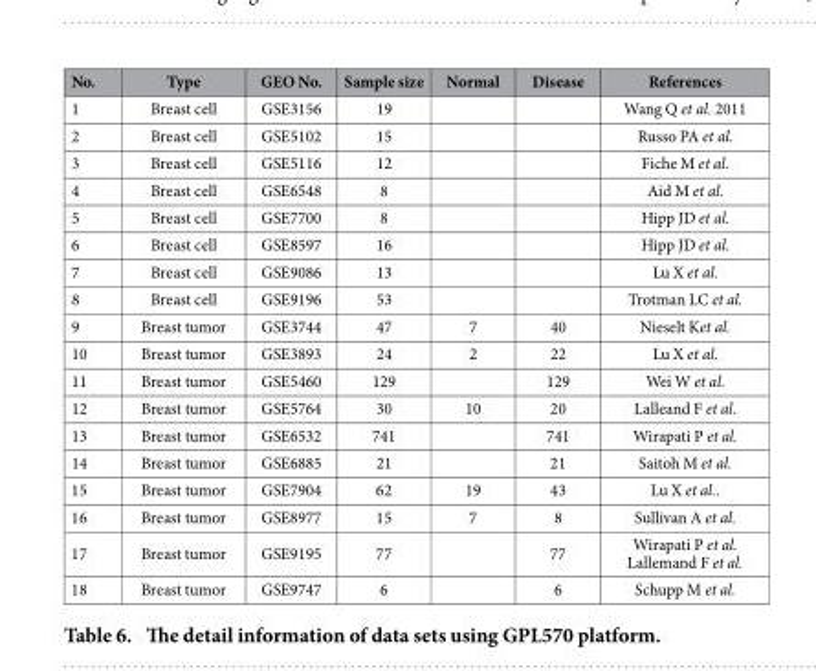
<table><thead><tr><td>No.</td><td>Type</td><td>GEO No.</td><td>Sample size</td><td>Normal</td><td>Disease</td><td>References</td></tr></thead><tbody><tr><td>1</td><td>Breast cell</td><td>GSE3156</td><td>19</td><td></td><td></td><td>Wang Q et al. 2011</td></tr><tr><td>2</td><td>Breast cell</td><td>GSE5102</td><td>15</td><td></td><td></td><td>Russo PA et al.</td></tr><tr><td>3</td><td>Breast cell</td><td>GSE5116</td><td>12</td><td></td><td></td><td>Fiche M et al.</td></tr><tr><td>4</td><td>Breast cell</td><td>GSE6548</td><td>8</td><td></td><td></td><td>Aid M et al.</td></tr><tr><td>5</td><td>Breast cell</td><td>GSE7700</td><td>8</td><td></td><td></td><td>Hipp JD et al.</td></tr><tr><td>6</td><td>Breast cell</td><td>GSE8597</td><td>16</td><td></td><td></td><td>Hipp JD et al.</td></tr><tr><td>7</td><td>Breast cell</td><td>GSE9086</td><td>13</td><td></td><td></td><td>Lu X et al.</td></tr><tr><td>8</td><td>Breast cell</td><td>GSE9196</td><td>53</td><td></td><td></td><td>Trotman LC et al.</td></tr><tr><td>9</td><td>Breast tumor</td><td>GSE3744</td><td>47</td><td>7</td><td>40</td><td>Nieselt Ket al.</td></tr><tr><td>10</td><td>Breast tumor</td><td>GSE3893</td><td>24</td><td>2</td><td>22</td><td>Lu X et al.</td></tr><tr><td>11</td><td>Breast tumor</td><td>GSE5460</td><td>129</td><td></td><td>129</td><td>Wei W et al.</td></tr><tr><td>12</td><td>Breast tumor</td><td>GSE5764</td><td>30</td><td>10</td><td>20</td><td>Lalleand F et al.</td></tr><tr><td>13</td><td>Breast tumor</td><td>GSE6532</td><td>741</td><td></td><td>741</td><td>Wirapati P et al.</td></tr><tr><td>14</td><td>Breast tumor</td><td>GSE6885</td><td>21</td><td></td><td>21</td><td>Saitoh M et al.</td></tr><tr><td>15</td><td>Breast tumor</td><td>GSE7904</td><td>62</td><td>19</td><td>43</td><td>Lu X et al..</td></tr><tr><td>16</td><td>Breast tumor</td><td>GSE8977</td><td>15</td><td>7</td><td>8</td><td>Sullivan A et al.</td></tr><tr><td>17</td><td>Breast tumor</td><td>GSE9195</td><td>77</td><td></td><td>77</td><td>Wirapati P et al. Lallemand F et al.</td></tr><tr><td>18</td><td>Breast tumor</td><td>GSE9747</td><td>6</td><td></td><td>6</td><td>Schupp M et al.</td></tr></tbody></table>